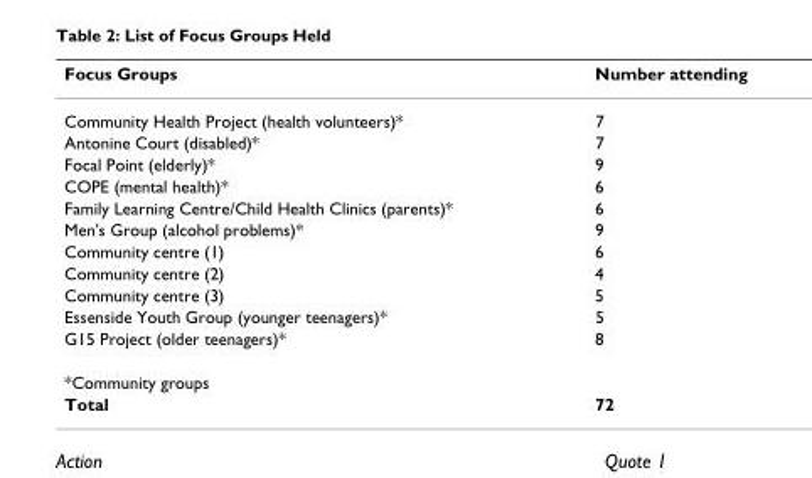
<table><thead><tr><td>Focus Groups</td><td>Number attending</td></tr></thead><tbody><tr><td>Community Health Project (health volunteers)*</td><td>7</td></tr><tr><td>Antonine Court (disabled)*</td><td>7</td></tr><tr><td>Focal Point (elderly)*</td><td>9</td></tr><tr><td>COPE (mental health)*</td><td>6</td></tr><tr><td>Family Learning Centre/Child Health Clinics (parents)*</td><td>6</td></tr><tr><td>Men&#x27;s Group (alcohol problems)*</td><td>9</td></tr><tr><td>Community centre (1)</td><td>6</td></tr><tr><td>Community centre (2)</td><td>4</td></tr><tr><td>Community centre (3)</td><td>5</td></tr><tr><td>Essenside Youth Group (younger teenagers)*</td><td>5</td></tr><tr><td>G15 Project (older teenagers)*</td><td>8</td></tr><tr><td colspan="2">*Community groups</td></tr><tr><td>Total</td><td>72</td></tr></tbody></table>